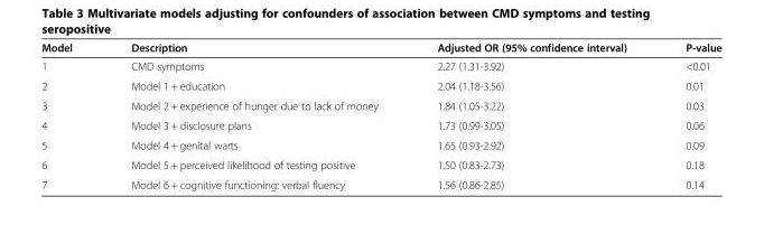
<table><thead><tr><td>Model</td><td>Description</td><td>Adjusted OR (95% confidence interval)</td><td>P-value</td></tr></thead><tbody><tr><td>1</td><td>CMD symptoms</td><td>2.27 (1.31-3.92)</td><td>&lt;0.01</td></tr><tr><td>2</td><td>Model 1 + education</td><td>2.04 (1.18-3.56)</td><td>0.01</td></tr><tr><td>3</td><td>Model 2 + experience of hunger due to lack of money</td><td>1.84 (1.05-3.22)</td><td>0.03</td></tr><tr><td>4</td><td>Model 3 + disclosure plans</td><td>1.73 (0.99-3.05)</td><td>0.06</td></tr><tr><td>5</td><td>Model 4 + genital warts</td><td>1.65 (0.93-2.92)</td><td>0.09</td></tr><tr><td>6</td><td>Model 5 + perceived likelihood of testing positive</td><td>1.50 (0.83-2.73)</td><td>0.18</td></tr><tr><td>7</td><td>Model 6 + cognitive functioning: verbal fluency</td><td>1.56 (0.86-2.85)</td><td>0.14</td></tr></tbody></table>